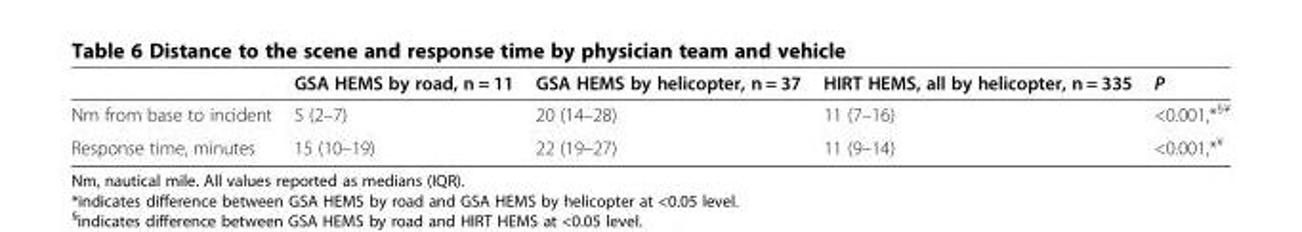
<table><thead><tr><td></td><td>GSA HEMS by road, n = 11</td><td>GSA HEMS by helicopter, n = 37</td><td>HIRT HEMS, all by helicopter, n = 335</td><td>P</td></tr></thead><tbody><tr><td>Nm from base to incident</td><td>5 (2–7)</td><td>20 (14–28)</td><td>11 (7–16)</td><td>&lt;0.001,*<sup>§¥</sup></td></tr><tr><td>Response time, minutes</td><td>15 (10–19)</td><td>22 (19–27)</td><td>11 (9–14)</td><td>&lt;0.001,*<sup>¥</sup></td></tr></tbody></table>